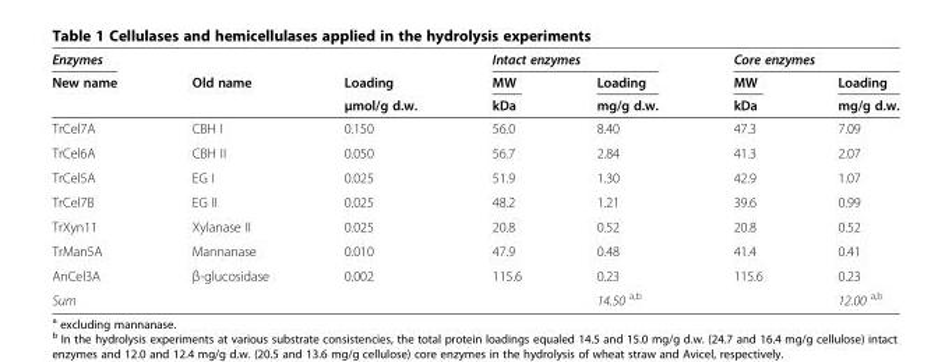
<table><thead><tr><td rowspan="3">Enzymes New name</td><td rowspan="3">Old name</td><td rowspan="3">Loading μmol/g d.w.</td><td colspan="2">Intact enzymes</td><td colspan="2">Core enzymes</td></tr><tr><td rowspan="2">MW kDa</td><td rowspan="2">Loading mg/g d.w.</td><td rowspan="2">MW kDa</td><td rowspan="2">Loading mg/g d.w.</td></tr><tr></tr></thead><tbody><tr><td>TrCel7A</td><td>CBH I</td><td>0.150</td><td>56.0</td><td>8.40</td><td>47.3</td><td>7.09</td></tr><tr><td>TrCel6A</td><td>CBH II</td><td>0.050</td><td>56.7</td><td>2.84</td><td>41.3</td><td>2.07</td></tr><tr><td>TrCel5A</td><td>EG I</td><td>0.025</td><td>51.9</td><td>1.30</td><td>42.9</td><td>1.07</td></tr><tr><td>TrCel7B</td><td>EG II</td><td>0.025</td><td>48.2</td><td>1.21</td><td>39.6</td><td>0.99</td></tr><tr><td>TrXyn11</td><td>Xylanase II</td><td>0.025</td><td>20.8</td><td>0.52</td><td>20.8</td><td>0.52</td></tr><tr><td>TrMan5A</td><td>Mannanase</td><td>0.010</td><td>47.9</td><td>0.48</td><td>41.4</td><td>0.41</td></tr><tr><td>AnCel3A</td><td>β-glucosidase</td><td>0.002</td><td>115.6</td><td>0.23</td><td>115.6</td><td>0.23</td></tr><tr><td>Sum</td><td></td><td></td><td></td><td>14.50 <sup>a,b</sup></td><td></td><td>12.00 <sup>a,b</sup></td></tr></tbody></table>